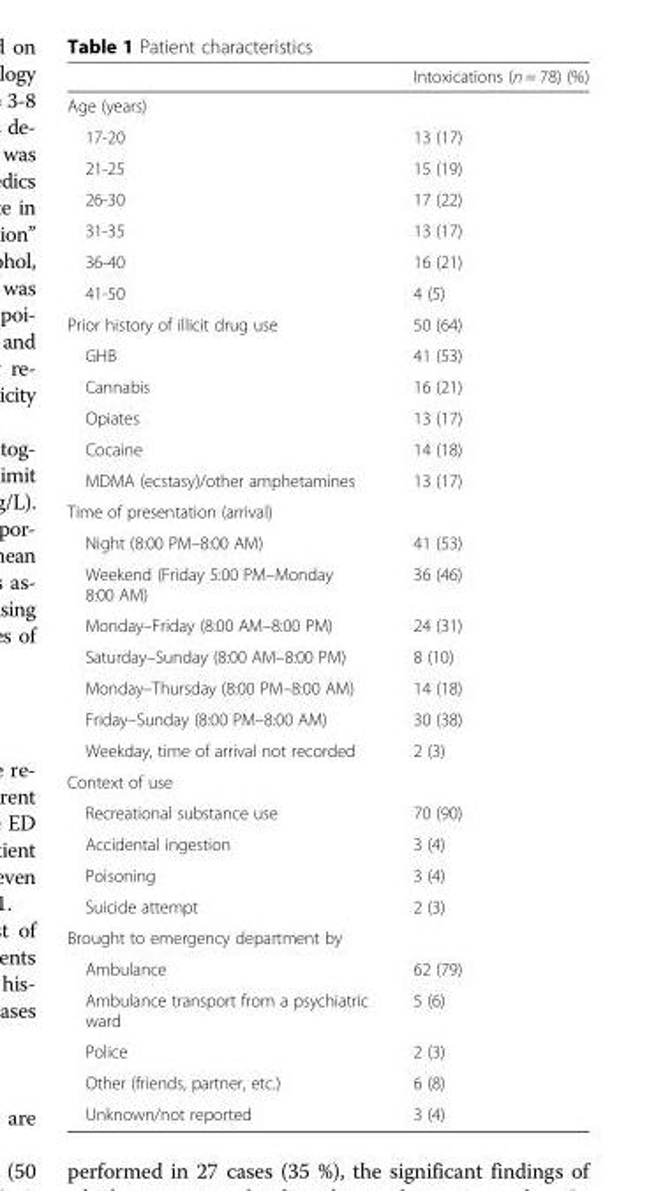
<table><thead><tr><td></td><td>Intoxications (n = 78) (%)</td></tr></thead><tbody><tr><td colspan="2">Age (years)</td></tr><tr><td>17-20</td><td>13 (17)</td></tr><tr><td>21-25</td><td>15 (19)</td></tr><tr><td>26-30</td><td>17 (22)</td></tr><tr><td>31-35</td><td>13 (17)</td></tr><tr><td>36-40</td><td>16 (21)</td></tr><tr><td>41-50</td><td>4 (5)</td></tr><tr><td>Prior history of illicit drug use</td><td>50 (64)</td></tr><tr><td>GHB</td><td>41 (53)</td></tr><tr><td>Cannabis</td><td>16 (21)</td></tr><tr><td>Opiates</td><td>13 (17)</td></tr><tr><td>Cocaine</td><td>14 (18)</td></tr><tr><td>MDMA (ecstasy)/other amphetamines</td><td>13 (17)</td></tr><tr><td colspan="2">Time of presentation (arrival)</td></tr><tr><td>Night (8:00 PM–8:00 AM)</td><td>41 (53)</td></tr><tr><td>Weekend (Friday 5:00 PM–Monday 8:00 AM)</td><td>36 (46)</td></tr><tr><td>Monday–Friday (8:00 AM–8:00 PM)</td><td>24 (31)</td></tr><tr><td>Saturday–Sunday (8:00 AM–8:00 PM)</td><td>8 (10)</td></tr><tr><td>Monday–Thursday (8:00 PM–8:00 AM)</td><td>14 (18)</td></tr><tr><td>Friday–Sunday (8:00 PM–8:00 AM)</td><td>30 (38)</td></tr><tr><td>Weekday, time of arrival not recorded</td><td>2 (3)</td></tr><tr><td colspan="2">Context of use</td></tr><tr><td>Recreational substance use</td><td>70 (90)</td></tr><tr><td>Accidental ingestion</td><td>3 (4)</td></tr><tr><td>Poisoning</td><td>3 (4)</td></tr><tr><td>Suicide attempt</td><td>2 (3)</td></tr><tr><td colspan="2">Brought to emergency department by</td></tr><tr><td>Ambulance</td><td>62 (79)</td></tr><tr><td>Ambulance transport from a psychiatric ward</td><td>5 (6)</td></tr><tr><td>Police</td><td>2 (3)</td></tr><tr><td>Other (friends, partner, etc.)</td><td>6 (8)</td></tr><tr><td>Unknown/not reported</td><td>3 (4)</td></tr></tbody></table>